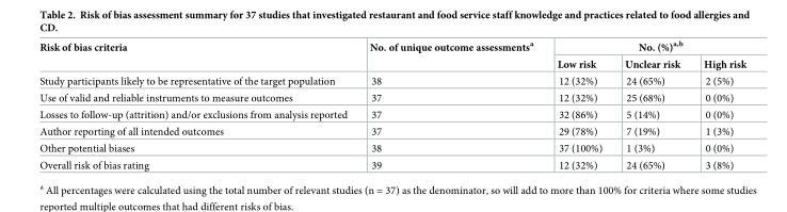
<table><thead><tr><td rowspan="2">Risk of bias criteria</td><td rowspan="2">No. of unique outcome assessments<sup>a</sup></td><td colspan="3">No. (%)<sup>a,b</sup></td></tr><tr><td>Low risk</td><td>Unclear risk</td><td>High risk</td></tr></thead><tbody><tr><td>Study participants likely to be representative of the target population</td><td>38</td><td>12 (32%)</td><td>24 (65%)</td><td>2 (5%)</td></tr><tr><td>Use of valid and reliable instruments to measure outcomes</td><td>37</td><td>12 (32%)</td><td>25 (68%)</td><td>0 (0%)</td></tr><tr><td>Losses to follow-up (attrition) and/or exclusions from analysis reported</td><td>37</td><td>32 (86%)</td><td>5 (14%)</td><td>0 (0%)</td></tr><tr><td>Author reporting of all intended outcomes</td><td>37</td><td>29 (78%)</td><td>7 (19%)</td><td>1 (3%)</td></tr><tr><td>Other potential biases</td><td>38</td><td>37 (100%)</td><td>1 (3%)</td><td>0 (0%)</td></tr><tr><td>Overall risk of bias rating</td><td>39</td><td>12 (32%)</td><td>24 (65%)</td><td>3 (8%)</td></tr></tbody></table>